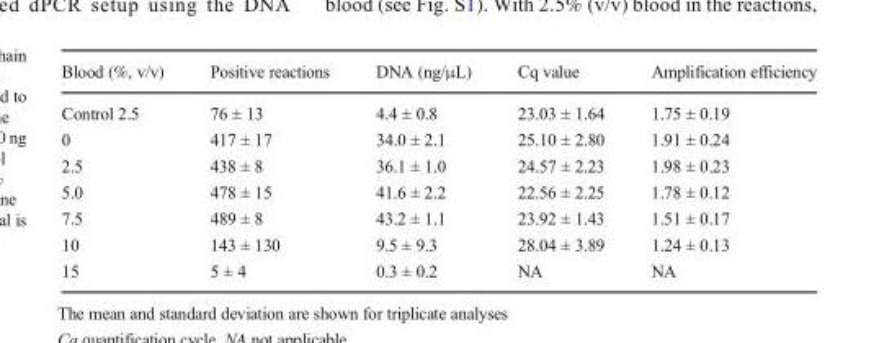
<table><thead><tr><td>Blood (%, v/v)</td><td>Positive reactions</td><td>DNA (ng/μL)</td><td>Cq value</td><td>Amplification efficiency</td></tr></thead><tbody><tr><td>Control 2.5</td><td>76 ± 13</td><td>4.4 ± 0.8</td><td>23.03 ± 1.64</td><td>1.75 ± 0.19</td></tr><tr><td>0</td><td>417 ± 17</td><td>34.0 ± 2.1</td><td>25.10 ± 2.80</td><td>1.91 ± 0.24</td></tr><tr><td>2.5</td><td>438 ± 8</td><td>36.1 ± 1.0</td><td>24.57 ± 2.23</td><td>1.98 ± 0.23</td></tr><tr><td>5.0</td><td>478 ± 15</td><td>41.6 ± 2.2</td><td>22.56 ± 2.25</td><td>1.78 ± 0.12</td></tr><tr><td>7.5</td><td>489 ± 8</td><td>43.2 ± 1.1</td><td>23.92 ± 1.43</td><td>1.51 ± 0.17</td></tr><tr><td>10</td><td>143 ± 130</td><td>9.5 ± 9.3</td><td>28.04 ± 3.89</td><td>1.24 ± 0.13</td></tr><tr><td>15</td><td>5 ± 4</td><td>0.3 ± 0.2</td><td>NA</td><td>NA</td></tr></tbody></table>